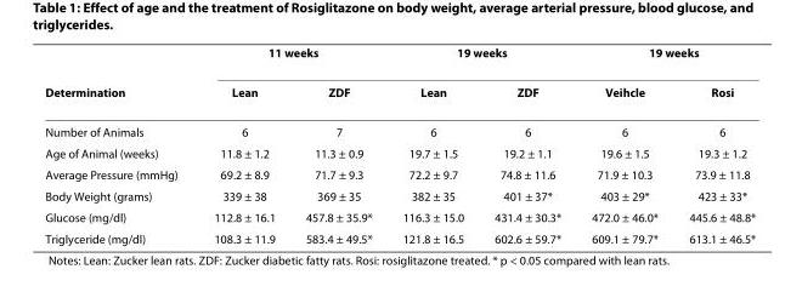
<table><thead><tr><td rowspan="2">Determination</td><td colspan="2">11 weeks</td><td colspan="2">19 weeks</td><td colspan="2">19 weeks</td></tr><tr><td>Lean</td><td>ZDF</td><td>Lean</td><td>ZDF</td><td>Veihcle</td><td>Rosi</td></tr></thead><tbody><tr><td>Number of Animals</td><td>6</td><td>7</td><td>6</td><td>6</td><td>6</td><td>6</td></tr><tr><td>Age of Animal (weeks)</td><td>11.8 ± 1.2</td><td>11.3 ± 0.9</td><td>19.7 ± 1.5</td><td>19.2 ± 1.1</td><td>19.6 ± 1.5</td><td>19.3 ± 1.2</td></tr><tr><td>Average Pressure (mmHg)</td><td>69.2 ± 8.9</td><td>71.7 ± 9.3</td><td>72.2 ± 9.7</td><td>74.8 ± 11.6</td><td>71.9 ± 10.3</td><td>73.9 ± 11.8</td></tr><tr><td>Body Weight (grams)</td><td>339 ± 38</td><td>369 ± 35</td><td>382 ± 35</td><td>401 ± 37*</td><td>403 ± 29*</td><td>423 ± 33*</td></tr><tr><td>Glucose (mg/dl)</td><td>112.8 ± 16.1</td><td>457.8 ± 35.9*</td><td>116.3 ± 15.0</td><td>431.4 ± 30.3*</td><td>472.0 ± 46.0*</td><td>445.6 ± 48.8*</td></tr><tr><td>Triglyceride (mg/dl)</td><td>108.3 ± 11.9</td><td>583.4 ± 49.5*</td><td>121.8 ± 16.5</td><td>602.6 ± 59.7*</td><td>609.1 ± 79.7*</td><td>613.1 ± 46.5*</td></tr></tbody></table>